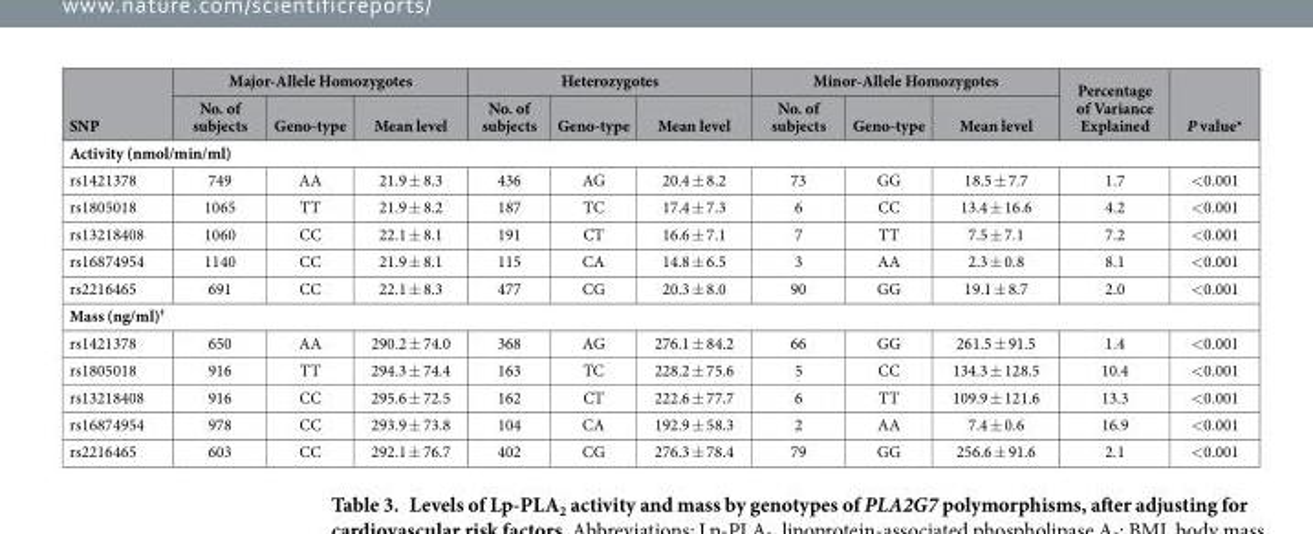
<table><thead><tr><td rowspan="2">SNP</td><td colspan="3">Major-Allele Homozygotes</td><td colspan="3">Heterozygotes</td><td colspan="3">Minor-Allele Homozygotes</td><td rowspan="2">Percentage of Variance Explained</td><td rowspan="2">P value*</td></tr><tr><td>No. of subjects</td><td>Geno-type</td><td>Mean level</td><td>No. of subjects</td><td>Geno-type</td><td>Mean level</td><td>No. of subjects</td><td>Geno-type</td><td>Mean level</td></tr></thead><tbody><tr><td colspan="12">Activity (nmol/min/ml)</td></tr><tr><td>rs1421378</td><td>749</td><td>AA</td><td>21.9 ± 8.3</td><td>436</td><td>AG</td><td>20.4 ± 8.2</td><td>73</td><td>GG</td><td>18.5 ± 7.7</td><td>1.7</td><td>&lt; 0.001</td></tr><tr><td>rs1805018</td><td>1065</td><td>TT</td><td>21.9 ± 8.2</td><td>187</td><td>TC</td><td>17.4 ± 7.3</td><td>6</td><td>CC</td><td>13.4 ± 16.6</td><td>4.2</td><td>&lt; 0.001</td></tr><tr><td>rs13218408</td><td>1060</td><td>CC</td><td>22.1 ± 8.1</td><td>191</td><td>CT</td><td>16.6 ± 7.1</td><td>7</td><td>TT</td><td>7.5 ± 7.1</td><td>7.2</td><td>&lt; 0.001</td></tr><tr><td>rs16874954</td><td>1140</td><td>CC</td><td>21.9 ± 8.1</td><td>115</td><td>CA</td><td>14.8 ± 6.5</td><td>3</td><td>AA</td><td>2.3 ± 0.8</td><td>8.1</td><td>&lt; 0.001</td></tr><tr><td>rs2216465</td><td>691</td><td>CC</td><td>22.1 ± 8.3</td><td>477</td><td>CG</td><td>20.3 ± 8.0</td><td>90</td><td>GG</td><td>19.1 ± 8.7</td><td>2.0</td><td>&lt; 0.001</td></tr><tr><td colspan="12">Mass (ng/ml)†</td></tr><tr><td>rs1421378</td><td>650</td><td>AA</td><td>290.2 ± 74.0</td><td>368</td><td>AG</td><td>276.1 ± 84.2</td><td>66</td><td>GG</td><td>261.5 ± 91.5</td><td>1.4</td><td>&lt; 0.001</td></tr><tr><td>rs1805018</td><td>916</td><td>TT</td><td>294.3 ± 74.4</td><td>163</td><td>TC</td><td>228.2 ± 75.6</td><td>5</td><td>CC</td><td>134.3 ± 128.5</td><td>10.4</td><td>&lt; 0.001</td></tr><tr><td>rs13218408</td><td>916</td><td>CC</td><td>295.6 ± 72.5</td><td>162</td><td>CT</td><td>222.6 ± 77.7</td><td>6</td><td>TT</td><td>109.9 ± 121.6</td><td>13.3</td><td>&lt; 0.001</td></tr><tr><td>rs16874954</td><td>978</td><td>CC</td><td>293.9 ± 73.8</td><td>104</td><td>CA</td><td>192.9 ± 58.3</td><td>2</td><td>AA</td><td>7.4 ± 0.6</td><td>16.9</td><td>&lt; 0.001</td></tr><tr><td>rs2216465</td><td>603</td><td>CC</td><td>292.1 ± 76.7</td><td>402</td><td>CG</td><td>276.3 ± 78.4</td><td>79</td><td>GG</td><td>256.6 ± 91.6</td><td>2.1</td><td>&lt; 0.001</td></tr></tbody></table>